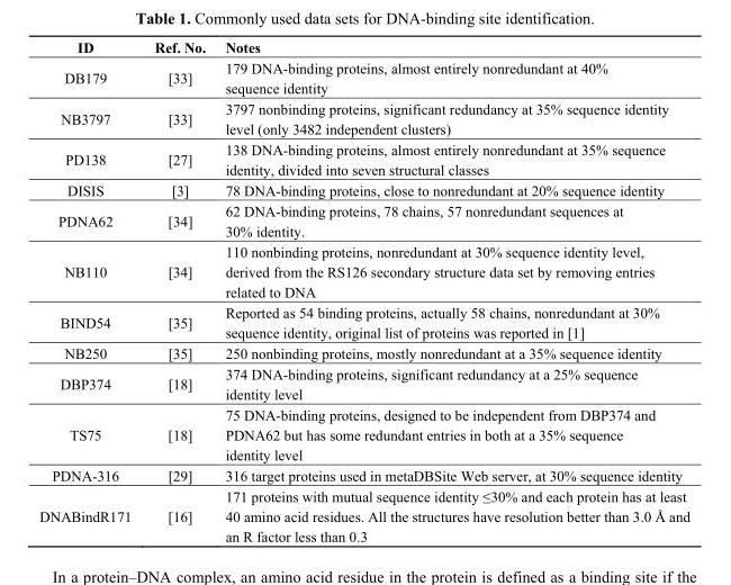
<table><thead><tr><td>ID</td><td>Ref. No.</td><td>Notes</td></tr></thead><tbody><tr><td>DB179</td><td>[33]</td><td>179 DNA-binding proteins, almost entirely nonredundant at 40% sequence identity</td></tr><tr><td>NB3797</td><td>[33]</td><td>3797 nonbinding proteins, significant redundancy at 35% sequence identity level (only 3482 independent clusters)</td></tr><tr><td>PD138</td><td>[27]</td><td>138 DNA-binding proteins, almost entirely nonredundant at 35% sequence identity, divided into seven structural classes</td></tr><tr><td>DISIS</td><td>[3]</td><td>78 DNA-binding proteins, close to nonredundant at 20% sequence identity</td></tr><tr><td>PDNA62</td><td>[34]</td><td>62 DNA-binding proteins, 78 chains, 57 nonredundant sequences at 30% identity.</td></tr><tr><td>NB110</td><td>[34]</td><td>110 nonbinding proteins, nonredundant at 30% sequence identity level, derived from the RS126 secondary structure data set by removing entries related to DNA</td></tr><tr><td>BIND54</td><td>[35]</td><td>Reported as 54 binding proteins, actually 58 chains, nonredundant at 30% sequence identity, original list of proteins was reported in [1]</td></tr><tr><td>NB250</td><td>[35]</td><td>250 nonbinding proteins, mostly nonredundant at a 35% sequence identity</td></tr><tr><td>DBP374</td><td>[18]</td><td>374 DNA-binding proteins, significant redundancy at a 25% sequence identity level</td></tr><tr><td>TS75</td><td>[18]</td><td>75 DNA-binding proteins, designed to be independent from DBP374 and PDNA62 but has some redundant entries in both at a 35% sequence identity level</td></tr><tr><td>PDNA-316</td><td>[29]</td><td>316 target proteins used in metaDBSite Web server, at 30% sequence identity</td></tr><tr><td>DNABindR171</td><td>[16]</td><td>171 proteins with mutual sequence identity ≤30% and each protein has at least 40 amino acid residues. All the structures have resolution better than 3.0 Å and an R factor less than 0.3</td></tr></tbody></table>